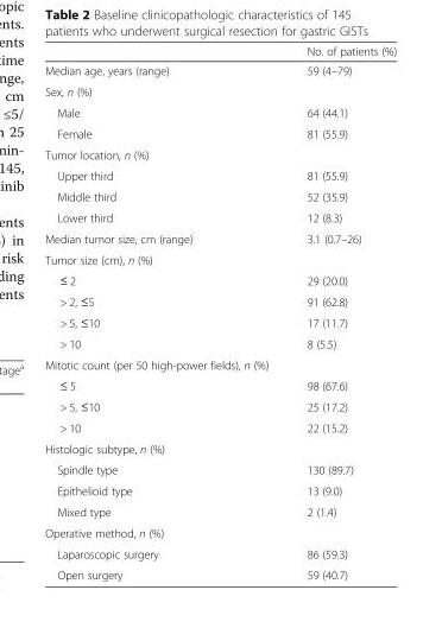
<table><thead><tr><td></td><td>No. of patients (%)</td></tr></thead><tbody><tr><td>Median age, years (range)</td><td>59 (4–79)</td></tr><tr><td colspan="2">Sex, n (%)</td></tr><tr><td>Male</td><td>64 (44.1)</td></tr><tr><td>Female</td><td>81 (55.9)</td></tr><tr><td colspan="2">Tumor location, n (%)</td></tr><tr><td>Upper third</td><td>81 (55.9)</td></tr><tr><td>Middle third</td><td>52 (35.9)</td></tr><tr><td>Lower third</td><td>12 (8.3)</td></tr><tr><td>Median tumor size, cm (range)</td><td>3.1 (0.7–26)</td></tr><tr><td colspan="2">Tumor size (cm), n (%)</td></tr><tr><td>≤ 2</td><td>29 (20.0)</td></tr><tr><td>&gt; 2, ≤5</td><td>91 (62.8)</td></tr><tr><td>&gt; 5, ≤10</td><td>17 (11.7)</td></tr><tr><td>&gt; 10</td><td>8 (5.5)</td></tr><tr><td colspan="2">Mitotic count (per 50 high-power fields), n (%)</td></tr><tr><td>≤ 5</td><td>98 (67.6)</td></tr><tr><td>&gt; 5, ≤10</td><td>25 (17.2)</td></tr><tr><td>&gt; 10</td><td>22 (15.2)</td></tr><tr><td colspan="2">Histologic subtype, n (%)</td></tr><tr><td>Spindle type</td><td>130 (89.7)</td></tr><tr><td>Epithelioid type</td><td>13 (9.0)</td></tr><tr><td>Mixed type</td><td>2 (1.4)</td></tr><tr><td colspan="2">Operative method, n (%)</td></tr><tr><td>Laparoscopic surgery</td><td>86 (59.3)</td></tr><tr><td>Open surgery</td><td>59 (40.7)</td></tr></tbody></table>